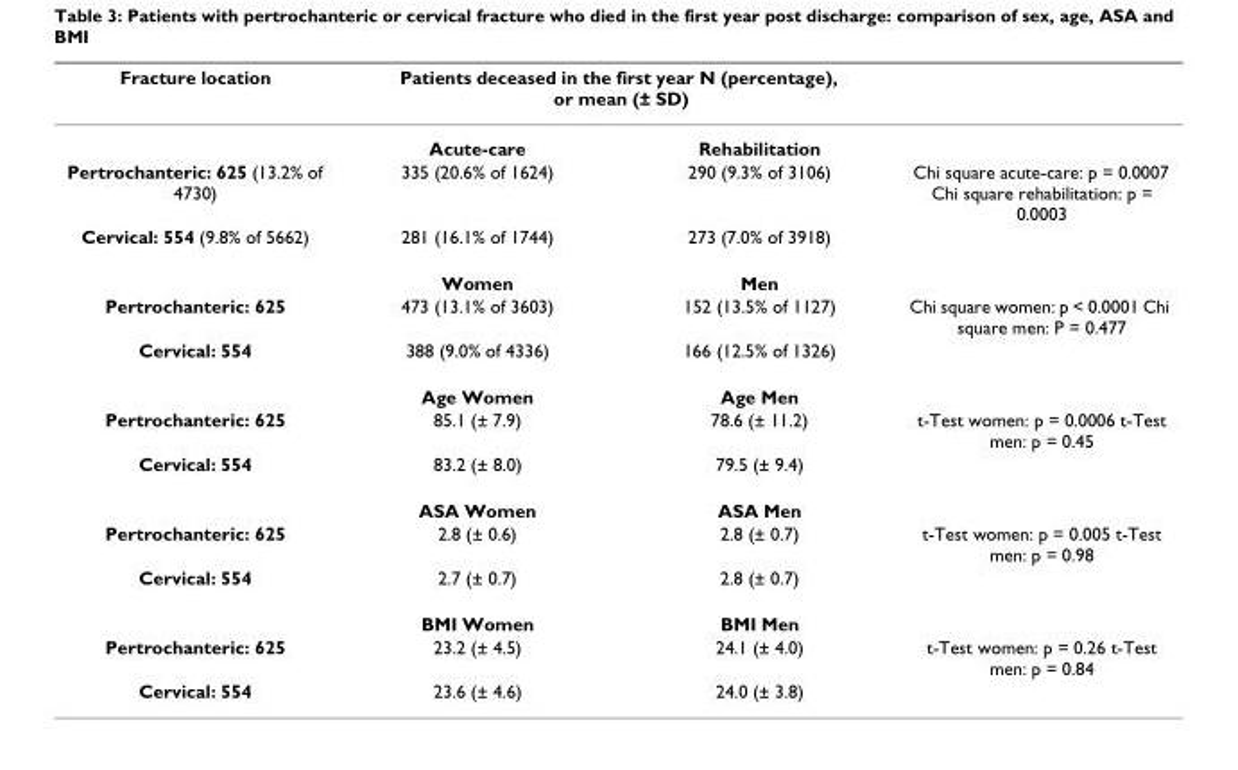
<table><thead><tr><td rowspan="2">Fracture location</td><td colspan="2">Patients deceased in the first year N (percentage), or mean (± SD)</td><td rowspan="2"></td></tr><tr><td>Acute-care</td><td>Rehabilitation</td></tr></thead><tbody><tr><td>Pertrochanteric: 625 (13.2% of 4730)</td><td>335 (20.6% of 1624)</td><td>290 (9.3% of 3106)</td><td>Chi square acute-care: p = 0.0007 Chi square rehabilitation: p = 0.0003</td></tr><tr><td rowspan="2">Cervical: 554 (9.8% of 5662)</td><td>281 (16.1% of 1744)</td><td>273 (7.0% of 3918)</td><td></td></tr><tr><td>Women</td><td>Men</td><td></td></tr><tr><td>Pertrochanteric: 625</td><td>473 (13.1% of 3603)</td><td>152 (13.5% of 1127)</td><td>Chi square women: p &lt; 0.0001 Chi square men: P = 0.477</td></tr><tr><td rowspan="2">Cervical: 554</td><td>388 (9.0% of 4336)</td><td>166 (12.5% of 1326)</td><td></td></tr><tr><td>Age Women</td><td>Age Men</td><td></td></tr><tr><td>Pertrochanteric: 625</td><td>85.1 (± 7.9)</td><td>78.6 (± 11.2)</td><td>t-Test women: p = 0.0006 t-Test men: p = 0.45</td></tr><tr><td rowspan="2">Cervical: 554</td><td>83.2 (± 8.0)</td><td>79.5 (± 9.4)</td><td></td></tr><tr><td>ASA Women</td><td>ASA Men</td><td></td></tr><tr><td>Pertrochanteric: 625</td><td>2.8 (± 0.6)</td><td>2.8 (± 0.7)</td><td>t-Test women: p = 0.005 t-Test men: p = 0.98</td></tr><tr><td rowspan="2">Cervical: 554</td><td>2.7 (± 0.7)</td><td>2.8 (± 0.7)</td><td></td></tr><tr><td>BMI Women</td><td>BMI Men</td><td></td></tr><tr><td>Pertrochanteric: 625</td><td>23.2 (± 4.5)</td><td>24.1 (± 4.0)</td><td>t-Test women: p = 0.26 t-Test men: p = 0.84</td></tr><tr><td>Cervical: 554</td><td>23.6 (± 4.6)</td><td>24.0 (± 3.8)</td><td></td></tr></tbody></table>